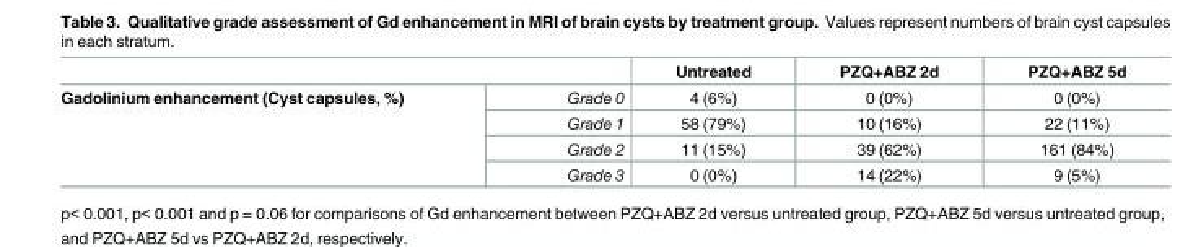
<table><thead><tr><td></td><td></td><td>Untreated</td><td>PZQ+ABZ 2d</td><td>PZQ+ABZ 5d</td></tr></thead><tbody><tr><td rowspan="4">Gadolinium enhancement (Cyst capsules, %)</td><td>Grade 0</td><td>4 (6%)</td><td>0 (0%)</td><td>0 (0%)</td></tr><tr><td>Grade 1</td><td>58 (79%)</td><td>10 (16%)</td><td>22 (11%)</td></tr><tr><td>Grade 2</td><td>11 (15%)</td><td>39 (62%)</td><td>161 (84%)</td></tr><tr><td>Grade 3</td><td>0 (0%)</td><td>14 (22%)</td><td>9 (5%)</td></tr></tbody></table>